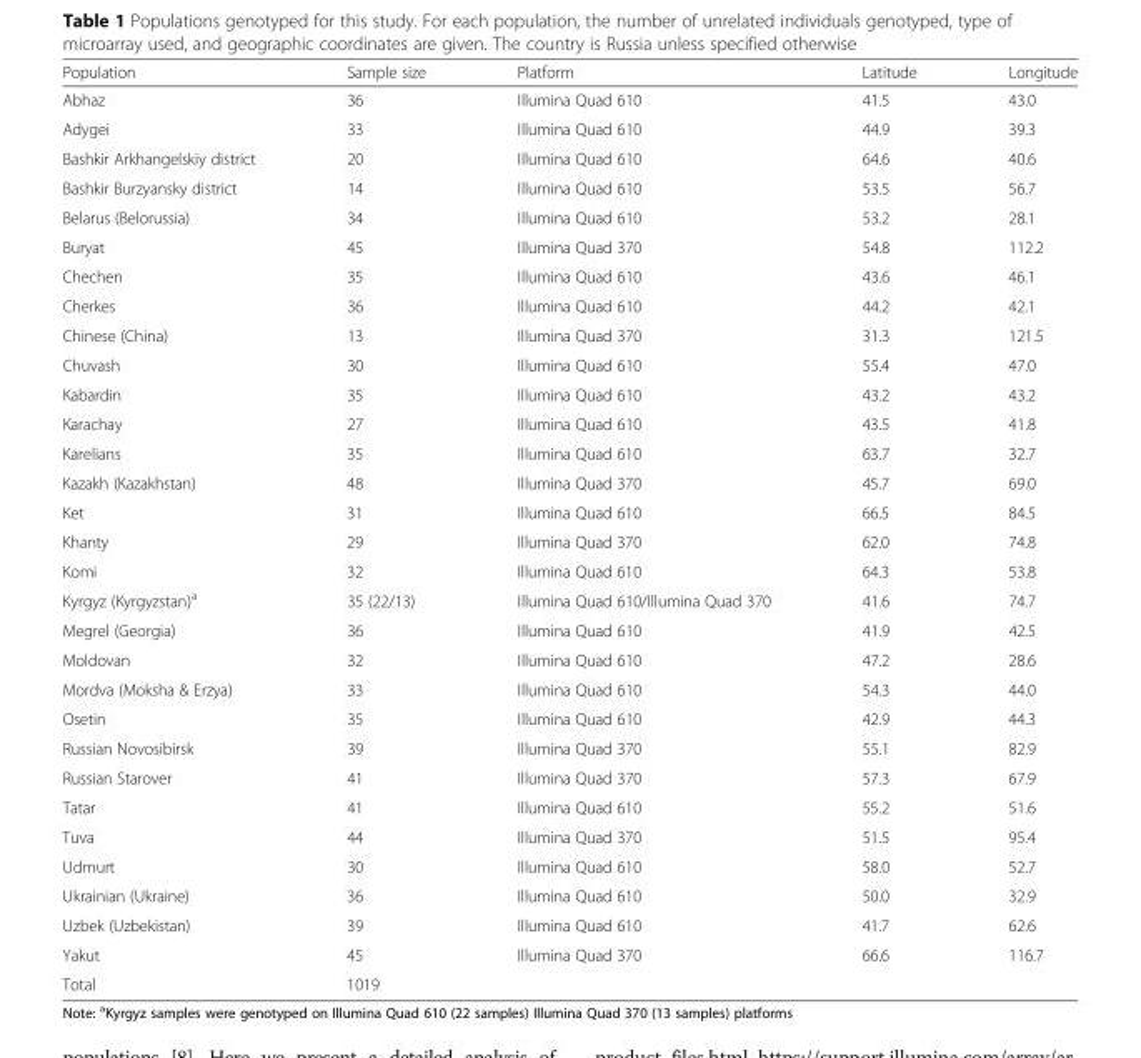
<table><thead><tr><td>Population</td><td>Sample size</td><td>Platform</td><td>Latitude</td><td>Longitude</td></tr></thead><tbody><tr><td>Abhaz</td><td>36</td><td>Illumina Quad 610</td><td>41.5</td><td>43.0</td></tr><tr><td>Adygei</td><td>33</td><td>Illumina Quad 610</td><td>44.9</td><td>39.3</td></tr><tr><td>Bashkir Arkhangelskiy district</td><td>20</td><td>Illumina Quad 610</td><td>64.6</td><td>40.6</td></tr><tr><td>Bashkir Burzyansky district</td><td>14</td><td>Illumina Quad 610</td><td>53.5</td><td>56.7</td></tr><tr><td>Belarus (Belorussia)</td><td>34</td><td>Illumina Quad 610</td><td>53.2</td><td>28.1</td></tr><tr><td>Buryat</td><td>45</td><td>Illumina Quad 370</td><td>54.8</td><td>112.2</td></tr><tr><td>Chechen</td><td>35</td><td>Illumina Quad 610</td><td>43.6</td><td>46.1</td></tr><tr><td>Cherkes</td><td>36</td><td>Illumina Quad 610</td><td>44.2</td><td>42.1</td></tr><tr><td>Chinese (China)</td><td>13</td><td>Illumina Quad 370</td><td>31.3</td><td>121.5</td></tr><tr><td>Chuvash</td><td>30</td><td>Illumina Quad 610</td><td>55.4</td><td>47.0</td></tr><tr><td>Kabardin</td><td>35</td><td>Illumina Quad 610</td><td>43.2</td><td>43.2</td></tr><tr><td>Karachay</td><td>27</td><td>Illumina Quad 610</td><td>43.5</td><td>41.8</td></tr><tr><td>Karelians</td><td>35</td><td>Illumina Quad 610</td><td>63.7</td><td>32.7</td></tr><tr><td>Kazakh (Kazakhstan)</td><td>48</td><td>Illumina Quad 370</td><td>45.7</td><td>69.0</td></tr><tr><td>Ket</td><td>31</td><td>Illumina Quad 610</td><td>66.5</td><td>84.5</td></tr><tr><td>Khanty</td><td>29</td><td>Illumina Quad 370</td><td>62.0</td><td>74.8</td></tr><tr><td>Komi</td><td>32</td><td>Illumina Quad 610</td><td>64.3</td><td>53.8</td></tr><tr><td>Kyrgyz (Kyrgyzstan)<sup>a</sup></td><td>35 (22/13)</td><td>Illumina Quad 610/Illumina Quad 370</td><td>41.6</td><td>74.7</td></tr><tr><td>Megrel (Georgia)</td><td>36</td><td>Illumina Quad 610</td><td>41.9</td><td>42.5</td></tr><tr><td>Moldovan</td><td>32</td><td>Illumina Quad 610</td><td>47.2</td><td>28.6</td></tr><tr><td>Mordva (Moksha &amp; Erzya)</td><td>33</td><td>Illumina Quad 610</td><td>54.3</td><td>44.0</td></tr><tr><td>Osetin</td><td>35</td><td>Illumina Quad 610</td><td>42.9</td><td>44.3</td></tr><tr><td>Russian Novosibirsk</td><td>39</td><td>Illumina Quad 370</td><td>55.1</td><td>82.9</td></tr><tr><td>Russian Starover</td><td>41</td><td>Illumina Quad 370</td><td>57.3</td><td>67.9</td></tr><tr><td>Tatar</td><td>41</td><td>Illumina Quad 610</td><td>55.2</td><td>51.6</td></tr><tr><td>Tuva</td><td>44</td><td>Illumina Quad 370</td><td>51.5</td><td>95.4</td></tr><tr><td>Udmurt</td><td>30</td><td>Illumina Quad 610</td><td>58.0</td><td>52.7</td></tr><tr><td>Ukrainian (Ukraine)</td><td>36</td><td>Illumina Quad 610</td><td>50.0</td><td>32.9</td></tr><tr><td>Uzbek (Uzbekistan)</td><td>39</td><td>Illumina Quad 610</td><td>41.7</td><td>62.6</td></tr><tr><td>Yakut</td><td>45</td><td>Illumina Quad 370</td><td>66.6</td><td>116.7</td></tr><tr><td>Total</td><td>1019</td><td colspan="3"></td></tr></tbody></table>